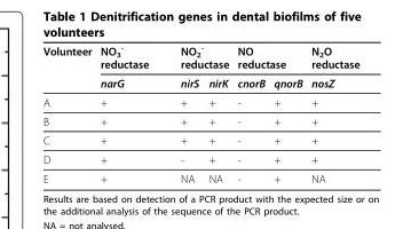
<table><thead><tr><td rowspan="2">Volunteer</td><td rowspan="2">NO<sub>3</sub> <sup>-</sup> reductase narG</td><td colspan="2">NO<sub>2</sub> <sup>-</sup> reductase</td><td colspan="2">NO reductase</td><td rowspan="2">N<sub>2</sub>O reductase nosZ</td></tr><tr><td>nirS</td><td>nirK</td><td>cnorB</td><td>qnorB</td></tr></thead><tbody><tr><td>A</td><td>+</td><td>+</td><td>+</td><td>-</td><td>+</td><td>+</td></tr><tr><td>B</td><td>+</td><td>+</td><td>+</td><td>-</td><td>+</td><td>+</td></tr><tr><td>C</td><td>+</td><td>+</td><td>+</td><td>-</td><td>+</td><td>+</td></tr><tr><td>D</td><td>+</td><td>-</td><td>+</td><td>-</td><td>+</td><td>+</td></tr><tr><td>E</td><td>+</td><td>NA</td><td>NA</td><td>-</td><td>+</td><td>NA</td></tr></tbody></table>